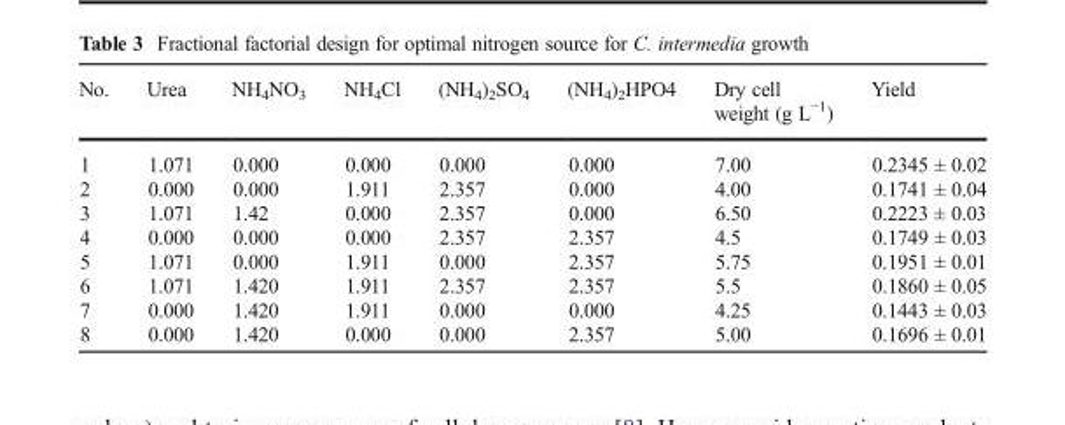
<table><thead><tr><td>No.</td><td>Urea</td><td>NH<sub>4</sub>NO<sub>3</sub></td><td>NH<sub>4</sub>Cl</td><td>(NH<sub>4</sub>)<sub>2</sub>SO<sub>4</sub></td><td>(NH<sub>4</sub>)<sub>2</sub>HPO4</td><td>Dry cell weight (g L<sup>−1</sup>)</td><td>Yield</td></tr></thead><tbody><tr><td>1</td><td>1.071</td><td>0.000</td><td>0.000</td><td>0.000</td><td>0.000</td><td>7.00</td><td>0.2345 ± 0.02</td></tr><tr><td>2</td><td>0.000</td><td>0.000</td><td>1.911</td><td>2.357</td><td>0.000</td><td>4.00</td><td>0.1741 ± 0.04</td></tr><tr><td>3</td><td>1.071</td><td>1.42</td><td>0.000</td><td>2.357</td><td>0.000</td><td>6.50</td><td>0.2223 ± 0.03</td></tr><tr><td>4</td><td>0.000</td><td>0.000</td><td>0.000</td><td>2.357</td><td>2.357</td><td>4.5</td><td>0.1749 ± 0.03</td></tr><tr><td>5</td><td>1.071</td><td>0.000</td><td>1.911</td><td>0.000</td><td>2.357</td><td>5.75</td><td>0.1951 ± 0.01</td></tr><tr><td>6</td><td>1.071</td><td>1.420</td><td>1.911</td><td>2.357</td><td>2.357</td><td>5.5</td><td>0.1860 ± 0.05</td></tr><tr><td>7</td><td>0.000</td><td>1.420</td><td>1.911</td><td>0.000</td><td>0.000</td><td>4.25</td><td>0.1443 ± 0.03</td></tr><tr><td>8</td><td>0.000</td><td>1.420</td><td>0.000</td><td>0.000</td><td>2.357</td><td>5.00</td><td>0.1696 ± 0.01</td></tr></tbody></table>